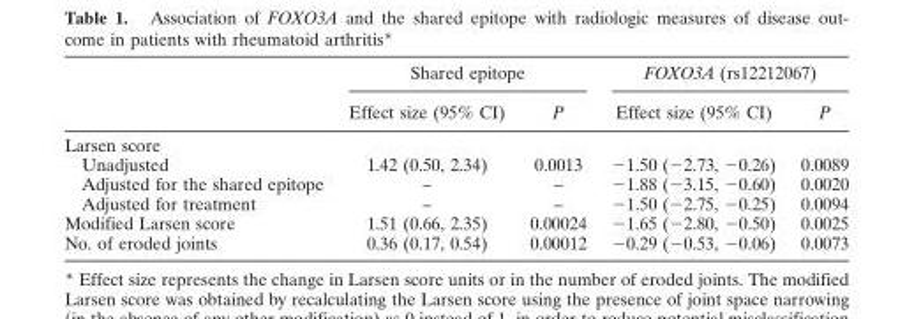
<table><thead><tr><td rowspan="2"></td><td colspan="2">Shared epitope</td><td colspan="2">FOXO3A (rs12212067)</td></tr><tr><td>Effect size (95% CI)</td><td>P</td><td>Effect size (95% CI)</td><td>P</td></tr></thead><tbody><tr><td colspan="5">Larsen score</td></tr><tr><td>Unadjusted</td><td>1.42 (0.50, 2.34)</td><td>0.0013</td><td>−1.50 (−2.73, −0.26)</td><td>0.0089</td></tr><tr><td>Adjusted for the shared epitope</td><td>–</td><td>–</td><td>−1.88 (−3.15, −0.60)</td><td>0.0020</td></tr><tr><td>Adjusted for treatment</td><td>–</td><td>–</td><td>−1.50 (−2.75, −0.25)</td><td>0.0094</td></tr><tr><td>Modified Larsen score</td><td>1.51 (0.66, 2.35)</td><td>0.00024</td><td>−1.65 (−2.80, −0.50)</td><td>0.0025</td></tr><tr><td>No. of eroded joints</td><td>0.36 (0.17, 0.54)</td><td>0.00012</td><td>−0.29 (−0.53, −0.06)</td><td>0.0073</td></tr></tbody></table>